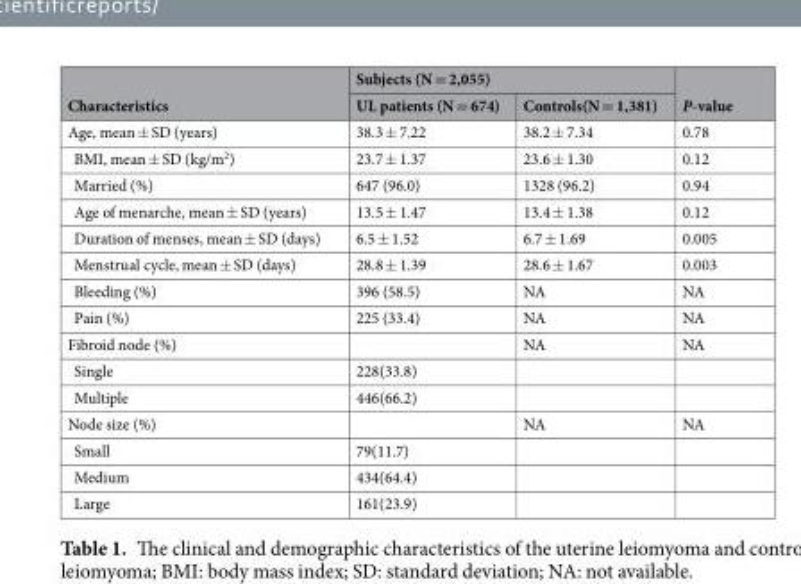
<table><thead><tr><td rowspan="2">Characteristics</td><td colspan="2">Subjects (N = 2,055)</td><td rowspan="2">P-value</td></tr><tr><td>UL patients (N = 674)</td><td>Controls(N = 1,381)</td></tr></thead><tbody><tr><td>Age, mean ± SD (years)</td><td>38.3 ± 7.22</td><td>38.2 ± 7.34</td><td>0.78</td></tr><tr><td>BMI, mean ± SD (kg/m<sup>2</sup>)</td><td>23.7 ± 1.37</td><td>23.6 ± 1.30</td><td>0.12</td></tr><tr><td>Married (%)</td><td>647 (96.0)</td><td>1328 (96.2)</td><td>0.94</td></tr><tr><td>Age of menarche, mean ± SD (years)</td><td>13.5 ± 1.47</td><td>13.4 ± 1.38</td><td>0.12</td></tr><tr><td>Duration of menses, mean ± SD (days)</td><td>6.5 ± 1.52</td><td>6.7 ± 1.69</td><td>0.005</td></tr><tr><td>Menstrual cycle, mean ± SD (days)</td><td>28.8 ± 1.39</td><td>28.6 ± 1.67</td><td>0.003</td></tr><tr><td>Bleeding (%)</td><td>396 (58.5)</td><td>NA</td><td>NA</td></tr><tr><td>Pain (%)</td><td>225 (33.4)</td><td>NA</td><td>NA</td></tr><tr><td>Fibroid node (%)</td><td></td><td>NA</td><td>NA</td></tr><tr><td>Single</td><td>228(33.8)</td><td></td><td></td></tr><tr><td>Multiple</td><td>446(66.2)</td><td></td><td></td></tr><tr><td>Node size (%)</td><td></td><td>NA</td><td>NA</td></tr><tr><td>Small</td><td>79(11.7)</td><td></td><td></td></tr><tr><td>Medium</td><td>434(64.4)</td><td></td><td></td></tr><tr><td>Large</td><td>161(23.9)</td><td></td><td></td></tr></tbody></table>